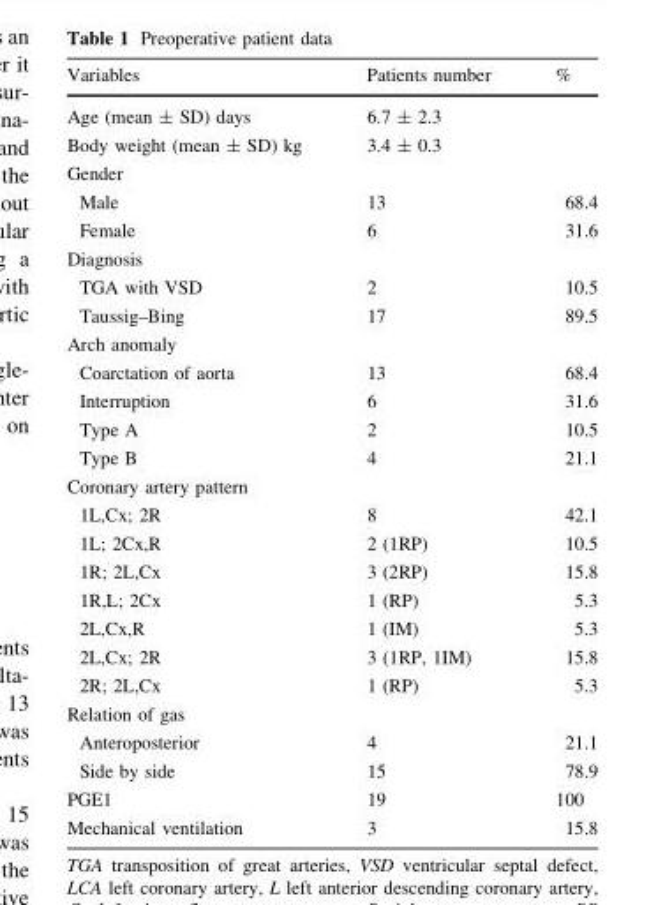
<table><thead><tr><td>Variables</td><td>Patients number</td><td>%</td></tr></thead><tbody><tr><td>Age (mean ± SD) days</td><td colspan="2">6.7 ± 2.3</td></tr><tr><td>Body weight (mean ± SD) kg</td><td colspan="2">3.4 ± 0.3</td></tr><tr><td colspan="3">Gender</td></tr><tr><td>Male</td><td>13</td><td>68.4</td></tr><tr><td>Female</td><td>6</td><td>31.6</td></tr><tr><td colspan="3">Diagnosis</td></tr><tr><td>TGA with VSD</td><td>2</td><td>10.5</td></tr><tr><td>Taussig–Bing</td><td>17</td><td>89.5</td></tr><tr><td colspan="3">Arch anomaly</td></tr><tr><td>Coarctation of aorta</td><td>13</td><td>68.4</td></tr><tr><td>Interruption</td><td>6</td><td>31.6</td></tr><tr><td>Type A</td><td>2</td><td>10.5</td></tr><tr><td>Type B</td><td>4</td><td>21.1</td></tr><tr><td colspan="3">Coronary artery pattern</td></tr><tr><td>1L,Cx; 2R</td><td>8</td><td>42.1</td></tr><tr><td>1L; 2Cx,R</td><td>2 (1RP)</td><td>10.5</td></tr><tr><td>1R; 2L,Cx</td><td>3 (2RP)</td><td>15.8</td></tr><tr><td>1R,L; 2Cx</td><td>1 (RP)</td><td>5.3</td></tr><tr><td>2L,Cx,R</td><td>1 (IM)</td><td>5.3</td></tr><tr><td>2L,Cx; 2R</td><td>3 (1RP, 1IM)</td><td>15.8</td></tr><tr><td>2R; 2L,Cx</td><td>1 (RP)</td><td>5.3</td></tr><tr><td colspan="3">Relation of gas</td></tr><tr><td>Anteroposterior</td><td>4</td><td>21.1</td></tr><tr><td>Side by side</td><td>15</td><td>78.9</td></tr><tr><td>PGE1</td><td>19</td><td>100</td></tr><tr><td>Mechanical ventilation</td><td>3</td><td>15.8</td></tr></tbody></table>